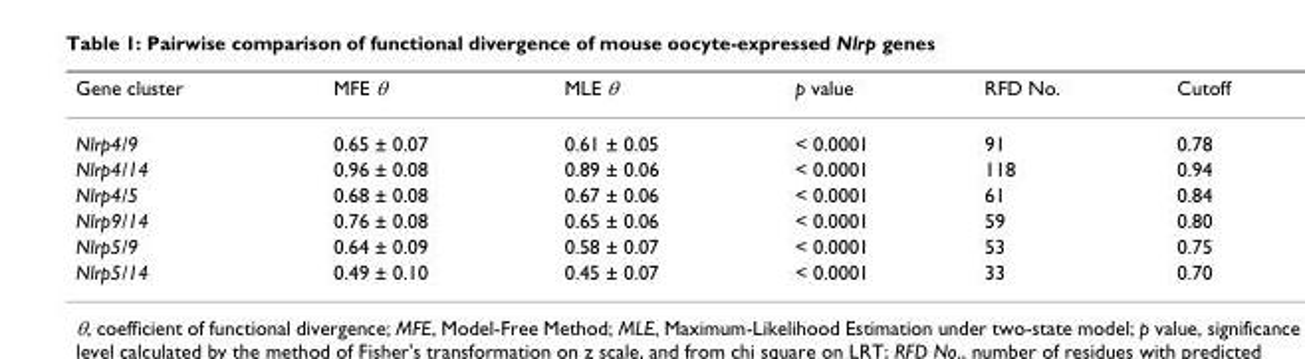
<table><thead><tr><td>Gene cluster</td><td>MFE θ</td><td>MLE θ</td><td>p value</td><td>RFD No.</td><td>Cutoff</td></tr></thead><tbody><tr><td>Nlrp4/9</td><td>0.65 ± 0.07</td><td>0.61 ± 0.05</td><td>&lt; 0.0001</td><td>91</td><td>0.78</td></tr><tr><td>Nlrp4/14</td><td>0.96 ± 0.08</td><td>0.89 ± 0.06</td><td>&lt; 0.0001</td><td>118</td><td>0.94</td></tr><tr><td>Nlrp4/5</td><td>0.68 ± 0.08</td><td>0.67 ± 0.06</td><td>&lt; 0.0001</td><td>61</td><td>0.84</td></tr><tr><td>Nlrp9/14</td><td>0.76 ± 0.08</td><td>0.65 ± 0.06</td><td>&lt; 0.0001</td><td>59</td><td>0.80</td></tr><tr><td>Nlrp5/9</td><td>0.64 ± 0.09</td><td>0.58 ± 0.07</td><td>&lt; 0.0001</td><td>53</td><td>0.75</td></tr><tr><td>Nlrp5/14</td><td>0.49 ± 0.10</td><td>0.45 ± 0.07</td><td>&lt; 0.0001</td><td>33</td><td>0.70</td></tr></tbody></table>